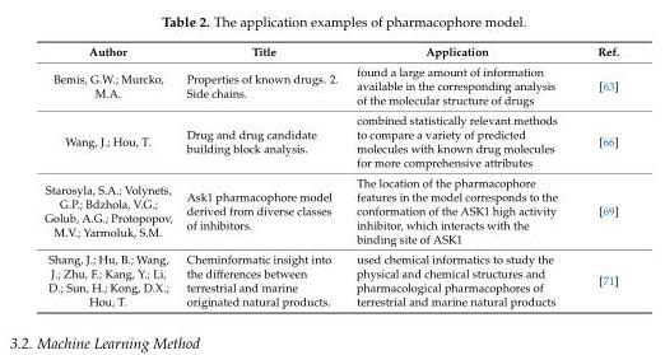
<table><thead><tr><td>Author</td><td>Title</td><td>Application</td><td>Ref.</td></tr></thead><tbody><tr><td>Bemis, G.W.; Murcko, M.A.</td><td>Properties of known drugs. 2. Side chains.</td><td>found a large amount of information available in the corresponding analysis of the molecular structure of drugs</td><td>[63]</td></tr><tr><td>Wang, J.; Hou, T.</td><td>Drug and drug candidate building block analysis.</td><td>combined statistically relevant methods to compare a variety of predicted molecules with known drug molecules for more comprehensive attributes</td><td>[66]</td></tr><tr><td>Starosyla, S.A.; Volynets, G.P.; Bdzhola, V.G.; Golub, A.G.; Protopopov, M.V.; Yarmoluk, S.M.</td><td>Ask1 pharmacophore model derived from diverse classes of inhibitors.</td><td>The location of the pharmacophore features in the model corresponds to the conformation of the ASK1 high activity inhibitor, which interacts with the binding site of ASK1</td><td>[69]</td></tr><tr><td>Shang, J.; Hu, B.; Wang, J.; Zhu, F.; Kang, Y.; Li, D.; Sun, H.; Kong, D.X.; Hou, T.</td><td>Cheminformatic insight into the differences between terrestrial and marine originated natural products.</td><td>used chemical informatics to study the physical and chemical structures and pharmacological pharmacophores of terrestrial and marine natural products</td><td>[71]</td></tr></tbody></table>